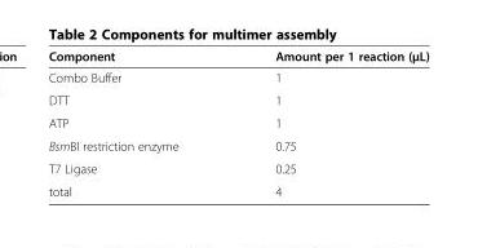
<table><thead><tr><td>Component</td><td>Amount per 1 reaction (μL)</td></tr></thead><tbody><tr><td>Combo Buffer</td><td>1</td></tr><tr><td>DTT</td><td>1</td></tr><tr><td>ATP</td><td>1</td></tr><tr><td>BsmBI restriction enzyme</td><td>0.75</td></tr><tr><td>T7 Ligase</td><td>0.25</td></tr><tr><td>total</td><td>4</td></tr></tbody></table>